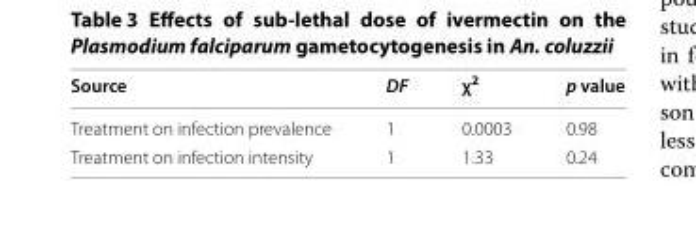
<table><thead><tr><td>Source</td><td>DF</td><td>χ<sup>2</sup></td><td>p value</td></tr></thead><tbody><tr><td>Treatment on infection prevalence</td><td>1</td><td>0.0003</td><td>0.98</td></tr><tr><td>Treatment on infection intensity</td><td>1</td><td>1.33</td><td>0.24</td></tr></tbody></table>